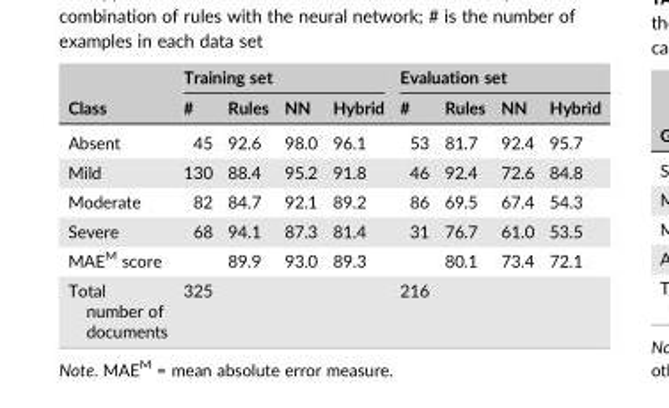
<table><thead><tr><td rowspan="2">Class</td><td colspan="4">Training set</td><td colspan="4">Evaluation set</td></tr><tr><td>#</td><td>Rules</td><td>NN</td><td>Hybrid</td><td>#</td><td>Rules</td><td>NN</td><td>Hybrid</td></tr></thead><tbody><tr><td>Absent</td><td>45</td><td>92.6</td><td>98.0</td><td>96.1</td><td>53</td><td>81.7</td><td>92.4</td><td>95.7</td></tr><tr><td>Mild</td><td>130</td><td>88.4</td><td>95.2</td><td>91.8</td><td>46</td><td>92.4</td><td>72.6</td><td>84.8</td></tr><tr><td>Moderate</td><td>82</td><td>84.7</td><td>92.1</td><td>89.2</td><td>86</td><td>69.5</td><td>67.4</td><td>54.3</td></tr><tr><td>Severe</td><td>68</td><td>94.1</td><td>87.3</td><td>81.4</td><td>31</td><td>76.7</td><td>61.0</td><td>53.5</td></tr><tr><td>MAE<sup>M</sup> score</td><td></td><td>89.9</td><td>93.0</td><td>89.3</td><td></td><td>80.1</td><td>73.4</td><td>72.1</td></tr><tr><td>Total number of documents</td><td>325</td><td colspan="3"></td><td>216</td><td colspan="3"></td></tr></tbody></table>